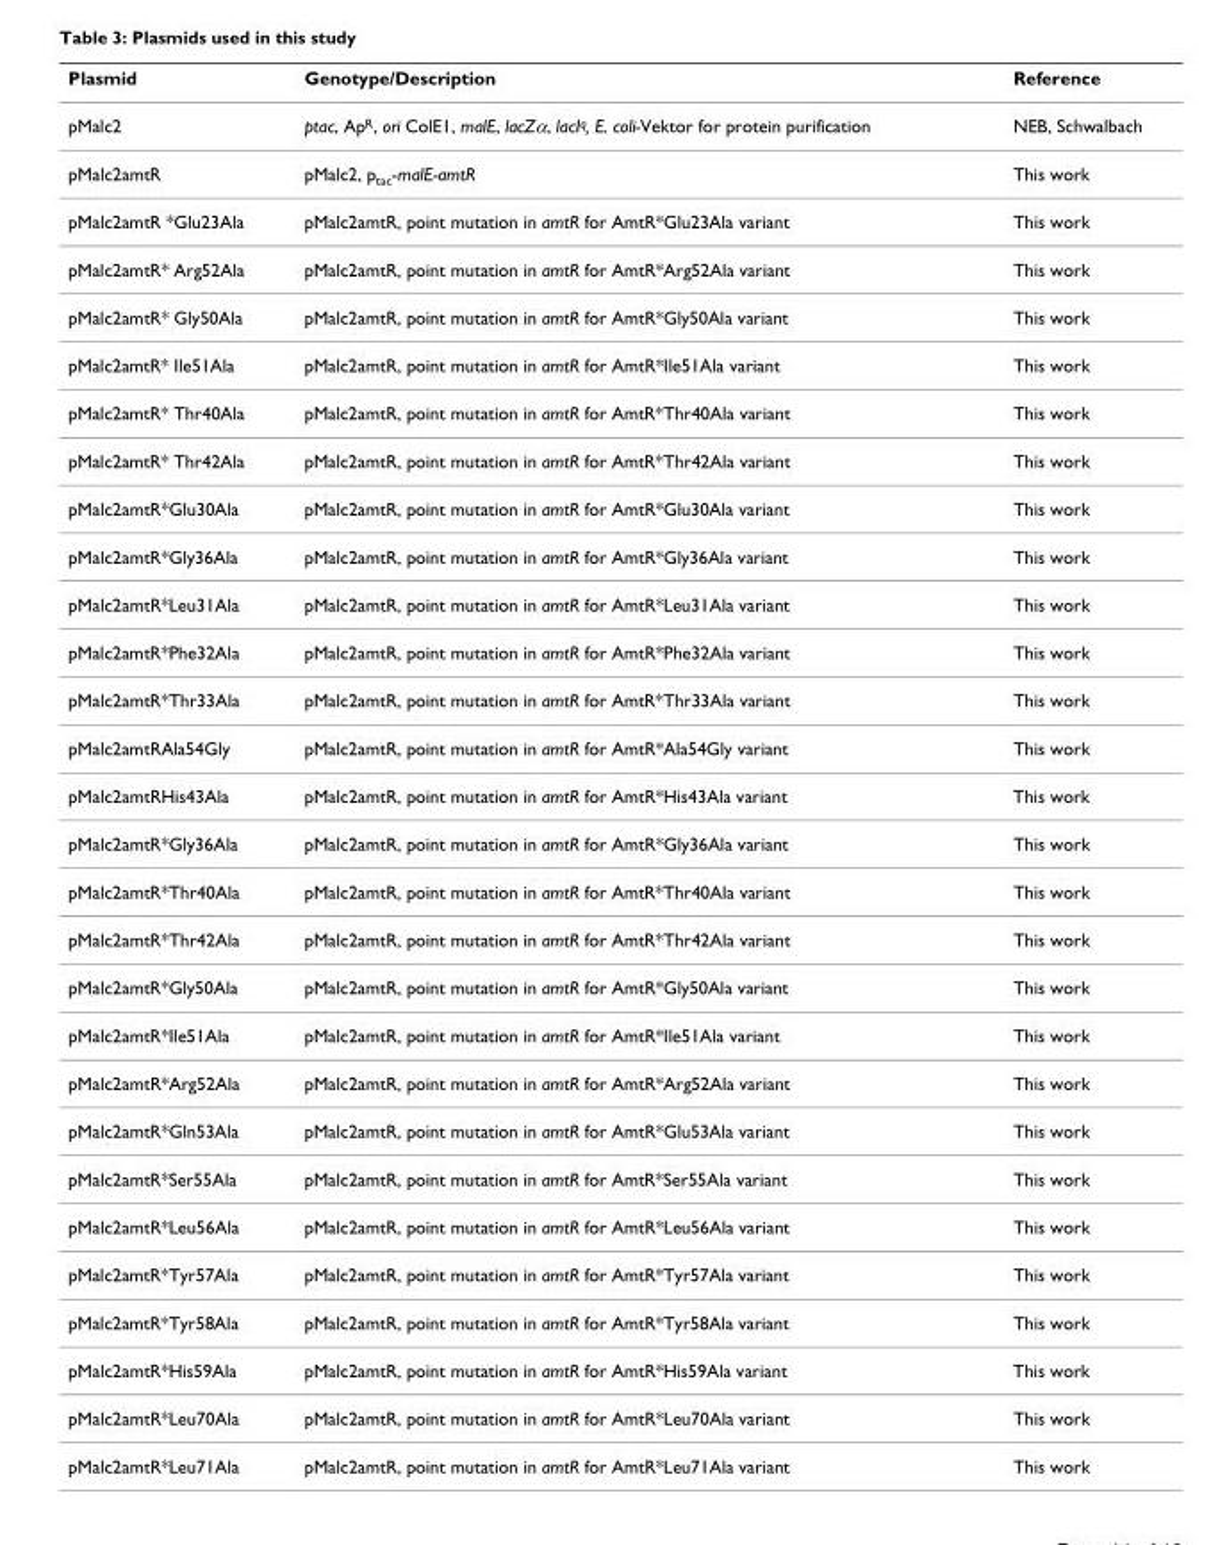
<table><thead><tr><td>Plasmid</td><td>Genotype/Description</td><td>Reference</td></tr></thead><tbody><tr><td>pMalc2</td><td>ptac, ApR, ori ColE1, malE, lacZα, lacIq, E. coli-Vektor for protein purification</td><td>NEB, Schwalbach</td></tr><tr><td>pMalc2amtR</td><td>pMalc2, p<sub>tac</sub>-malE-amtR</td><td>This work</td></tr><tr><td>pMalc2amtR *Glu23Ala</td><td>pMalc2amtR, point mutation in amtR for AmtR*Glu23Ala variant</td><td>This work</td></tr><tr><td>pMalc2amtR* Arg52Ala</td><td>pMalc2amtR, point mutation in amtR for AmtR*Arg52Ala variant</td><td>This work</td></tr><tr><td>pMalc2amtR* Gly50Ala</td><td>pMalc2amtR, point mutation in amtR for AmtR*Gly50Ala variant</td><td>This work</td></tr><tr><td>pMalc2amtR* Ile51Ala</td><td>pMalc2amtR, point mutation in amtR for AmtR*Ile51Ala variant</td><td>This work</td></tr><tr><td>pMalc2amtR* Thr40Ala</td><td>pMalc2amtR, point mutation in amtR for AmtR*Thr40Ala variant</td><td>This work</td></tr><tr><td>pMalc2amtR* Thr42Ala</td><td>pMalc2amtR, point mutation in amtR for AmtR*Thr42Ala variant</td><td>This work</td></tr><tr><td>pMalc2amtR*Glu30Ala</td><td>pMalc2amtR, point mutation in amtR for AmtR*Glu30Ala variant</td><td>This work</td></tr><tr><td>pMalc2amtR*Gly36Ala</td><td>pMalc2amtR, point mutation in amtR for AmtR*Gly36Ala variant</td><td>This work</td></tr><tr><td>pMalc2amtR*Leu31Ala</td><td>pMalc2amtR, point mutation in amtR for AmtR*Leu31Ala variant</td><td>This work</td></tr><tr><td>pMalc2amtR*Phe32Ala</td><td>pMalc2amtR, point mutation in amtR for AmtR*Phe32Ala variant</td><td>This work</td></tr><tr><td>pMalc2amtR*Thr33Ala</td><td>pMalc2amtR, point mutation in amtR for AmtR*Thr33Ala variant</td><td>This work</td></tr><tr><td>pMalc2amtRAla54Gly</td><td>pMalc2amtR, point mutation in amtR for AmtR*Ala54Gly variant</td><td>This work</td></tr><tr><td>pMalc2amtRHis43Ala</td><td>pMalc2amtR, point mutation in amtR for AmtR*His43Ala variant</td><td>This work</td></tr><tr><td>pMalc2amtR*Gly36Ala</td><td>pMalc2amtR, point mutation in amtR for AmtR*Gly36Ala variant</td><td>This work</td></tr><tr><td>pMalc2amtR*Thr40Ala</td><td>pMalc2amtR, point mutation in amtR for AmtR*Thr40Ala variant</td><td>This work</td></tr><tr><td>pMalc2amtR*Thr42Ala</td><td>pMalc2amtR, point mutation in amtR for AmtR*Thr42Ala variant</td><td>This work</td></tr><tr><td>pMalc2amtR*Gly50Ala</td><td>pMalc2amtR, point mutation in amtR for AmtR*Gly50Ala variant</td><td>This work</td></tr><tr><td>pMalc2amtR*Ile51Ala</td><td>pMalc2amtR, point mutation in amtR for AmtR*Ile51Ala variant</td><td>This work</td></tr><tr><td>pMalc2amtR*Arg52Ala</td><td>pMalc2amtR, point mutation in amtR for AmtR*Arg52Ala variant</td><td>This work</td></tr><tr><td>pMalc2amtR*Gln53Ala</td><td>pMalc2amtR, point mutation in amtR for AmtR*Glu53Ala variant</td><td>This work</td></tr><tr><td>pMalc2amtR*Ser55Ala</td><td>pMalc2amtR, point mutation in amtR for AmtR*Ser55Ala variant</td><td>This work</td></tr><tr><td>pMalc2amtR*Leu56Ala</td><td>pMalc2amtR, point mutation in amtR for AmtR*Leu56Ala variant</td><td>This work</td></tr><tr><td>pMalc2amtR*Tyr57Ala</td><td>pMalc2amtR, point mutation in amtR for AmtR*Tyr57Ala variant</td><td>This work</td></tr><tr><td>pMalc2amtR*Tyr58Ala</td><td>pMalc2amtR, point mutation in amtR for AmtR*Tyr58Ala variant</td><td>This work</td></tr><tr><td>pMalc2amtR*His59Ala</td><td>pMalc2amtR, point mutation in amtR for AmtR*His59Ala variant</td><td>This work</td></tr><tr><td>pMalc2amtR*Leu70Ala</td><td>pMalc2amtR, point mutation in amtR for AmtR*Leu70Ala variant</td><td>This work</td></tr><tr><td>pMalc2amtR*Leu71Ala</td><td>pMalc2amtR, point mutation in amtR for AmtR*Leu71Ala variant</td><td>This work</td></tr></tbody></table>